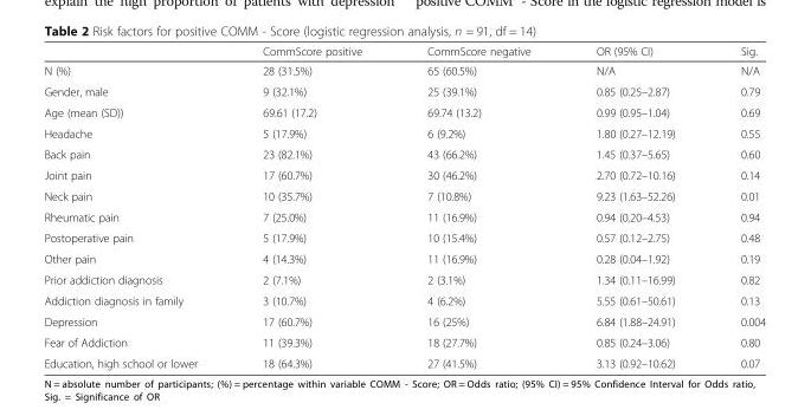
<table><thead><tr><td></td><td>CommScore positive</td><td>CommScore negative</td><td>OR (95% CI)</td><td>Sig.</td></tr></thead><tbody><tr><td>N (%)</td><td>28 (31.5%)</td><td>65 (60.5%)</td><td>N/A</td><td>N/A</td></tr><tr><td>Gender, male</td><td>9 (32.1%)</td><td>25 (39.1%)</td><td>0.85 (0.25–2.87)</td><td>0.79</td></tr><tr><td>Age (mean (SD))</td><td>69.61 (17.2)</td><td>69.74 (13.2)</td><td>0.99 (0.95–1.04)</td><td>0.69</td></tr><tr><td>Headache</td><td>5 (17.9%)</td><td>6 (9.2%)</td><td>1.80 (0.27–12.19)</td><td>0.55</td></tr><tr><td>Back pain</td><td>23 (82.1%)</td><td>43 (66.2%)</td><td>1.45 (0.37–5.65)</td><td>0.60</td></tr><tr><td>Joint pain</td><td>17 (60.7%)</td><td>30 (46.2%)</td><td>2.70 (0.72–10.16)</td><td>0.14</td></tr><tr><td>Neck pain</td><td>10 (35.7%)</td><td>7 (10.8%)</td><td>9.23 (1.63–52.26)</td><td>0.01</td></tr><tr><td>Rheumatic pain</td><td>7 (25.0%)</td><td>11 (16.9%)</td><td>0.94 (0.20–4.53)</td><td>0.94</td></tr><tr><td>Postoperative pain</td><td>5 (17.9%)</td><td>10 (15.4%)</td><td>0.57 (0.12–2.75)</td><td>0.48</td></tr><tr><td>Other pain</td><td>4 (14.3%)</td><td>11 (16.9%)</td><td>0.28 (0.04–1.92)</td><td>0.19</td></tr><tr><td>Prior addiction diagnosis</td><td>2 (7.1%)</td><td>2 (3.1%)</td><td>1.34 (0.11–16.99)</td><td>0.82</td></tr><tr><td>Addiction diagnosis in family</td><td>3 (10.7%)</td><td>4 (6.2%)</td><td>5.55 (0.61–50.61)</td><td>0.13</td></tr><tr><td>Depression</td><td>17 (60.7%)</td><td>16 (25%)</td><td>6.84 (1.88–24.91)</td><td>0.004</td></tr><tr><td>Fear of Addiction</td><td>11 (39.3%)</td><td>18 (27.7%)</td><td>0.85 (0.24–3.06)</td><td>0.80</td></tr><tr><td>Education, high school or lower</td><td>18 (64.3%)</td><td>27 (41.5%)</td><td>3.13 (0.92–10.62)</td><td>0.07</td></tr></tbody></table>